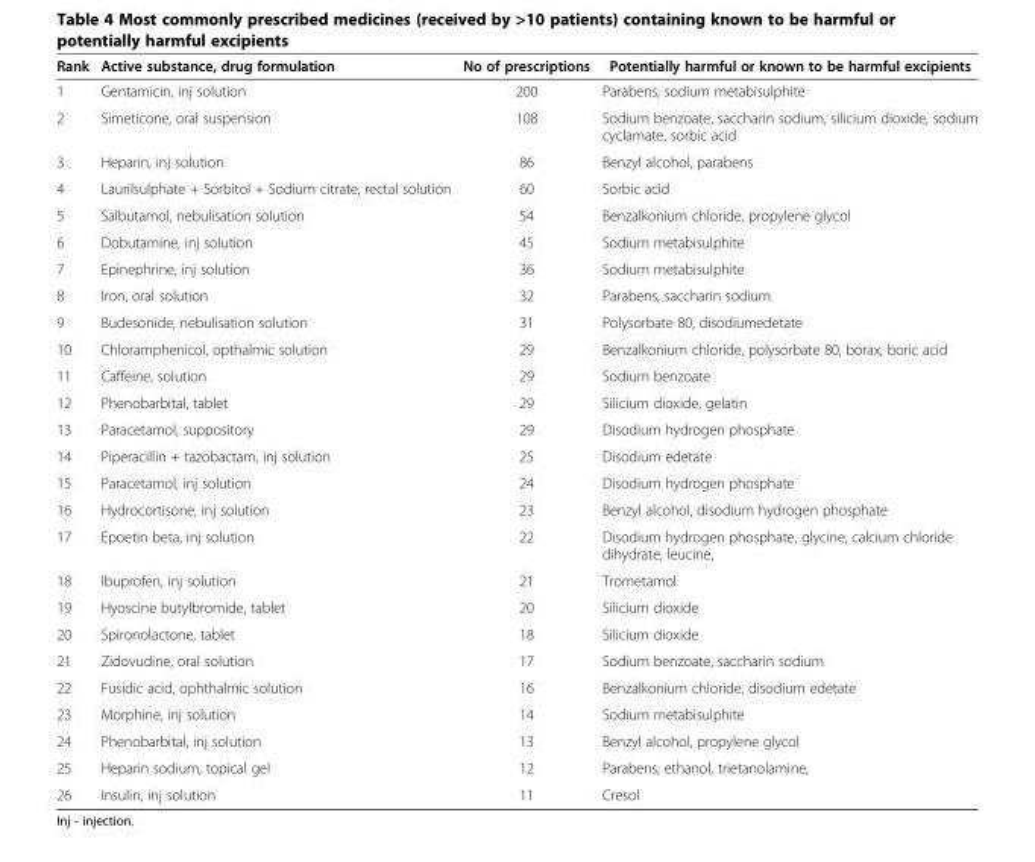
<table><thead><tr><td>Rank</td><td>Active substance, drug formulation</td><td>No of prescriptions</td><td>Potentially harmful or known to be harmful excipients</td></tr></thead><tbody><tr><td>1</td><td>Gentamicin, inj solution</td><td>200</td><td>Parabens, sodium metabisulphite</td></tr><tr><td>2</td><td>Simeticone, oral suspension</td><td>108</td><td>Sodium benzoate, saccharin sodium, silicium dioxide, sodium cyclamate, sorbic acid</td></tr><tr><td>3</td><td>Heparin, inj solution</td><td>86</td><td>Benzyl alcohol, parabens</td></tr><tr><td>4</td><td>Laurilsulphate + Sorbitol + Sodium citrate, rectal solution</td><td>60</td><td>Sorbic acid</td></tr><tr><td>5</td><td>Salbutamol, nebulisation solution</td><td>54</td><td>Benzalkonium chloride, propylene glycol</td></tr><tr><td>6</td><td>Dobutamine, inj solution</td><td>45</td><td>Sodium metabisulphite</td></tr><tr><td>7</td><td>Epinephrine, inj solution</td><td>36</td><td>Sodium metabisulphite</td></tr><tr><td>8</td><td>Iron, oral solution</td><td>32</td><td>Parabens, saccharin sodium</td></tr><tr><td>9</td><td>Budesonide, nebulisation solution</td><td>31</td><td>Polysorbate 80, disodiumedetate</td></tr><tr><td>10</td><td>Chloramphenicol, opthalmic solution</td><td>29</td><td>Benzalkonium chloride, polysorbate 80, borax, boric acid</td></tr><tr><td>11</td><td>Caffeine, solution</td><td>29</td><td>Sodium benzoate</td></tr><tr><td>12</td><td>Phenobarbital, tablet</td><td>29</td><td>Silicium dioxide, gelatin</td></tr><tr><td>13</td><td>Paracetamol, suppository</td><td>29</td><td>Disodium hydrogen phosphate</td></tr><tr><td>14</td><td>Piperacillin + tazobactam, inj solution</td><td>25</td><td>Disodium edetate</td></tr><tr><td>15</td><td>Paracetamol, inj solution</td><td>24</td><td>Disodium hydrogen phosphate</td></tr><tr><td>16</td><td>Hydrocortisone, inj solution</td><td>23</td><td>Benzyl alcohol, disodium hydrogen phosphate</td></tr><tr><td>17</td><td>Epoetin beta, inj solution</td><td>22</td><td>Disodium hydrogen phosphate, glycine, calcium chloride dihydrate, leucine,</td></tr><tr><td>18</td><td>Ibuprofen, inj solution</td><td>21</td><td>Trometamol</td></tr><tr><td>19</td><td>Hyoscine butylbromide, tablet</td><td>20</td><td>Silicium dioxide</td></tr><tr><td>20</td><td>Spironolactone, tablet</td><td>18</td><td>Silicium dioxide</td></tr><tr><td>21</td><td>Zidovudine, oral solution</td><td>17</td><td>Sodium benzoate, saccharin sodium</td></tr><tr><td>22</td><td>Fusidic acid, ophthalmic solution</td><td>16</td><td>Benzalkonium chloride, disodium edetate</td></tr><tr><td>23</td><td>Morphine, inj solution</td><td>14</td><td>Sodium metabisulphite</td></tr><tr><td>24</td><td>Phenobarbital, inj solution</td><td>13</td><td>Benzyl alcohol, propylene glycol</td></tr><tr><td>25</td><td>Heparin sodium, topical gel</td><td>12</td><td>Parabens, ethanol, trietanolamine,</td></tr><tr><td>26</td><td>Insulin, inj solution</td><td>11</td><td>Cresol</td></tr></tbody></table>